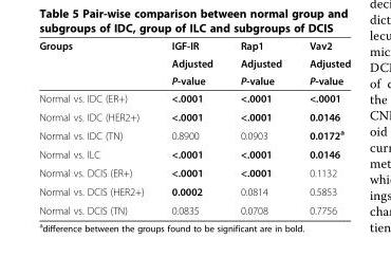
<table><thead><tr><td rowspan="3">Groups</td><td rowspan="3">IGF-IR Adjusted P-value</td><td rowspan="3">Rap1 Adjusted P-value</td><td rowspan="3">Vav2 Adjusted P-value</td></tr><tr></tr><tr></tr></thead><tbody><tr><td>Normal vs. IDC (ER+)</td><td>&lt;.0001</td><td>&lt;.0001</td><td>&lt;.0001</td></tr><tr><td>Normal vs. IDC (HER2+)</td><td>&lt;.0001</td><td>&lt;.0001</td><td>0.0146</td></tr><tr><td>Normal vs. IDC (TN)</td><td>0.8900</td><td>0.0903</td><td>0.0172<sup>a</sup></td></tr><tr><td>Normal vs. ILC</td><td>&lt;.0001</td><td>&lt;.0001</td><td>0.0146</td></tr><tr><td>Normal vs. DCIS (ER+)</td><td>&lt;.0001</td><td>&lt;.0001</td><td>0.1132</td></tr><tr><td>Normal vs. DCIS (HER2+)</td><td>0.0002</td><td>0.0814</td><td>0.5853</td></tr><tr><td>Normal vs. DCIS (TN)</td><td>0.0835</td><td>0.0708</td><td>0.7756</td></tr></tbody></table>